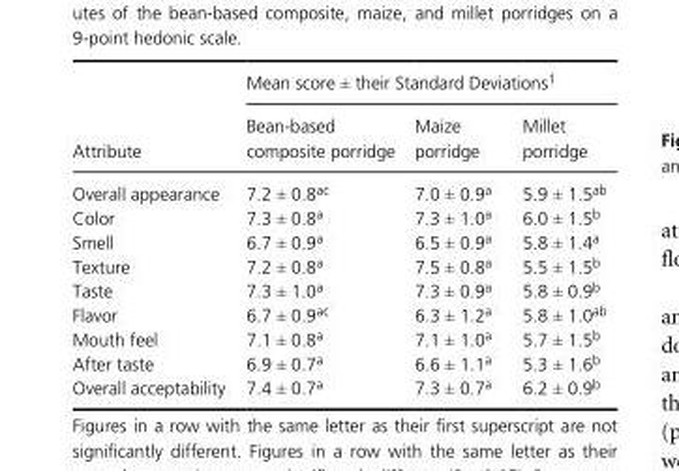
<table><thead><tr><td rowspan="2">Attribute</td><td colspan="3">Mean score ± their Standard Deviations1</td></tr><tr><td>Bean- based composite porridge</td><td>Maize porridge</td><td>Millet porridge</td></tr></thead><tbody><tr><td>Overall appearance</td><td>7.2 ± 0.8<sup>ac</sup></td><td>7.0 ± 0.9<sup>a</sup></td><td>5.9 ± 1.5<sup>ab</sup></td></tr><tr><td>Color</td><td>7.3 ± 0.8<sup>a</sup></td><td>7.3 ± 1.0<sup>a</sup></td><td>6.0 ± 1.5<sup>b</sup></td></tr><tr><td>Smell</td><td>6.7 ± 0.9<sup>a</sup></td><td>6.5 ± 0.9<sup>a</sup></td><td>5.8 ± 1.4<sup>a</sup></td></tr><tr><td>Texture</td><td>7.2 ± 0.8<sup>a</sup></td><td>7.5 ± 0.8<sup>a</sup></td><td>5.5 ± 1.5<sup>b</sup></td></tr><tr><td>Taste</td><td>7.3 ± 1.0<sup>a</sup></td><td>7.3 ± 0.9<sup>a</sup></td><td>5.8 ± 0.9<sup>b</sup></td></tr><tr><td>Flavor</td><td>6.7 ± 0.9<sup>ac</sup></td><td>6.3 ± 1.2<sup>a</sup></td><td>5.8 ± 1.0<sup>ab</sup></td></tr><tr><td>Mouth feel</td><td>7.1 ± 0.8<sup>a</sup></td><td>7.1 ± 1.0<sup>a</sup></td><td>5.7 ± 1.5<sup>b</sup></td></tr><tr><td>After taste</td><td>6.9 ± 0.7<sup>a</sup></td><td>6.6 ± 1.1<sup>a</sup></td><td>5.3 ± 1.6<sup>b</sup></td></tr><tr><td>Overall acceptability</td><td>7.4 ± 0.7<sup>a</sup></td><td>7.3 ± 0.7<sup>a</sup></td><td>6.2 ± 0.9<sup>b</sup></td></tr></tbody></table>